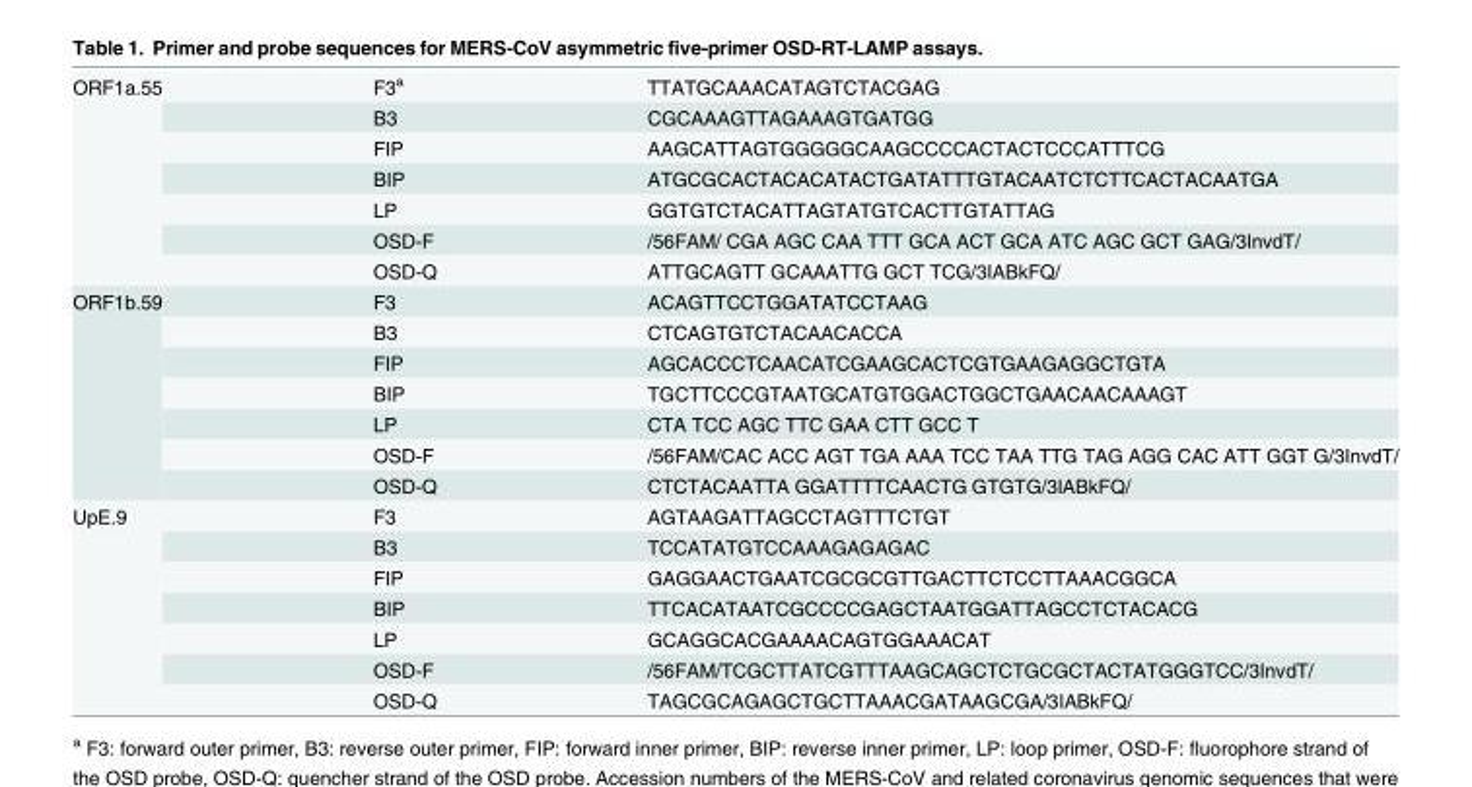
<table><tbody><tr><td rowspan="7">ORF1a.55</td><td>F3<sup>a</sup></td><td>TTATGCAAACATAGTCTACGAG</td></tr><tr><td>B3</td><td>CGCAAAGTTAGAAAGTGATGG</td></tr><tr><td>FIP</td><td>AAGCATTAGTGGGGGCAAGCCCCACTACTCCCATTTCG</td></tr><tr><td>BIP</td><td>ATGCGCACTACACATACTGATATTTGTACAATCTCTTCACTACAATGA</td></tr><tr><td>LP</td><td>GGTGTCTACATTAGTATGTCACTTGTATTAG</td></tr><tr><td>OSD-F</td><td>/56FAM/ CGA AGC CAA TTT GCA ACT GCA ATC AGC GCT GAG/3InvdT/</td></tr><tr><td>OSD-Q</td><td>ATTGCAGTT GCAAATTG GCT TCG/3IABkFQ/</td></tr><tr><td rowspan="7">ORF1b.59</td><td>F3</td><td>ACAGTTCCTGGATATCCTAAG</td></tr><tr><td>B3</td><td>CTCAGTGTCTACAACACCA</td></tr><tr><td>FIP</td><td>AGCACCCTCAACATCGAAGCACTCGTGAAGAGGCTGTA</td></tr><tr><td>BIP</td><td>TGCTTCCCGTAATGCATGTGGACTGGCTGAACAACAAAGT</td></tr><tr><td>LP</td><td>CTA TCC AGC TTC GAA CTT GCC T</td></tr><tr><td>OSD-F</td><td>/56FAM/CAC ACC AGT TGA AAA TCC TAA TTG TAG AGG CAC ATT GGT G/3InvdT/</td></tr><tr><td>OSD-Q</td><td>CTCTACAATTA GGATTTTCAACTG GTGTG/3IABkFQ/</td></tr><tr><td rowspan="7">UpE.9</td><td>F3</td><td>AGTAAGATTAGCCTAGTTTCTGT</td></tr><tr><td>B3</td><td>TCCATATGTCCAAAGAGAGAC</td></tr><tr><td>FIP</td><td>GAGGAACTGAATCGCGCGTTGACTTCTCCTTAAACGGCA</td></tr><tr><td>BIP</td><td>TTCACATAATCGCCCCGAGCTAATGGATTAGCCTCTACACG</td></tr><tr><td>LP</td><td>GCAGGCACGAAAACAGTGGAAACAT</td></tr><tr><td>OSD-F</td><td>/56FAM/TCGCTTATCGTTTAAGCAGCTCTGCGCTACTATGGGTCC/3InvdT/</td></tr><tr><td>OSD-Q</td><td>TAGCGCAGAGCTGCTTAAACGATAAGCGA/3IABkFQ/</td></tr></tbody></table>